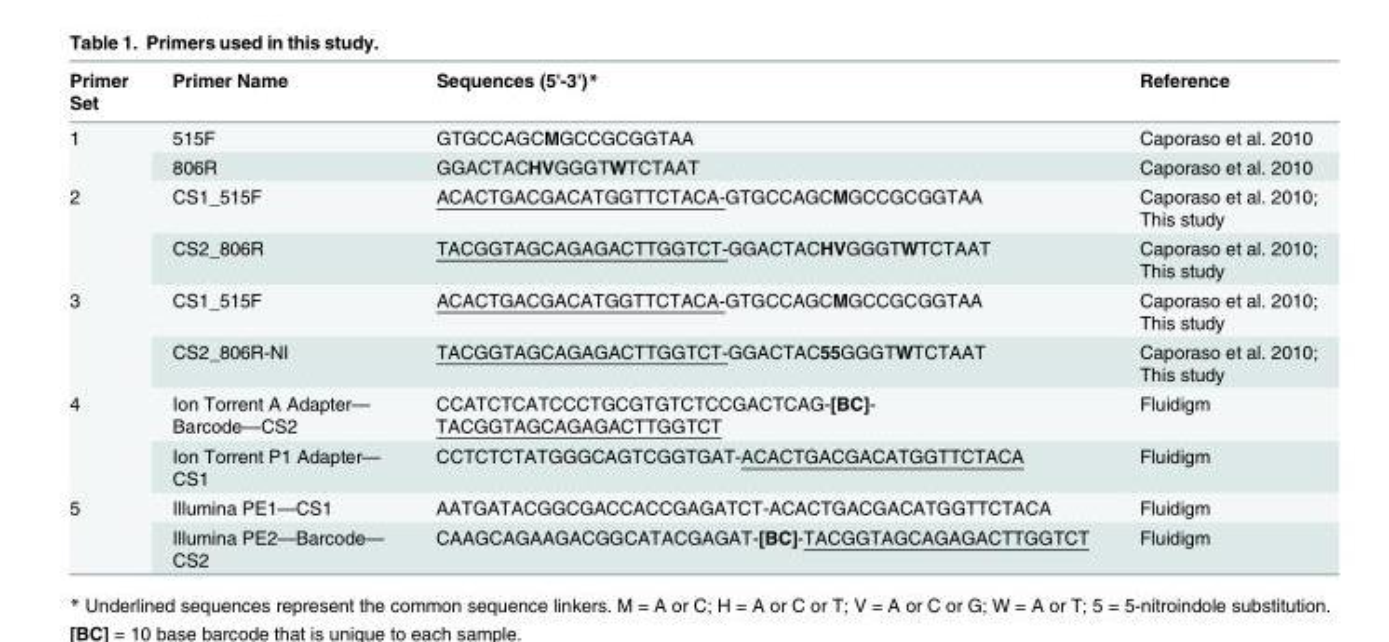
<table><thead><tr><td>Primer Set</td><td>Primer Name</td><td>Sequences (5&#x27;-3&#x27;)*</td><td>Reference</td></tr></thead><tbody><tr><td rowspan="2">1</td><td>515F</td><td>GTGCCAGCMGCCGCGGTAA</td><td>Caporaso et al. 2010</td></tr><tr><td>806R</td><td>GGACTACHVGGGTWTCTAAT</td><td>Caporaso et al. 2010</td></tr><tr><td rowspan="2">2</td><td>CS1_515F</td><td>ACACTGACGACATGGTTCTACA-GTGCCAGCMGCCGCGGTAA</td><td>Caporaso et al. 2010; This study</td></tr><tr><td>CS2_806R</td><td>TACGGTAGCAGAGACTTGGTCT-GGACTACHVGGGTWTCTAAT</td><td>Caporaso et al. 2010; This study</td></tr><tr><td rowspan="2">3</td><td>CS1_515F</td><td>ACACTGACGACATGGTTCTACA-GTGCCAGCMGCCGCGGTAA</td><td>Caporaso et al. 2010; This study</td></tr><tr><td>CS2_806R-NI</td><td>TACGGTAGCAGAGACTTGGTCT-GGACTAC55GGGTWTCTAAT</td><td>Caporaso et al. 2010; This study</td></tr><tr><td rowspan="2">4</td><td>Ion Torrent A Adapter— Barcode—CS2</td><td>CCATCTCATCCCTGCGTGTCTCCGACTCAG-[BC]- TACGGTAGCAGAGACTTGGTCT</td><td>Fluidigm</td></tr><tr><td>Ion Torrent P1 Adapter— CS1</td><td>CCTCTCTATGGGCAGTCGGTGAT-ACACTGACGACATGGTTCTACA</td><td>Fluidigm</td></tr><tr><td rowspan="2">5</td><td>Illumina PE1—CS1</td><td>AATGATACGGCGACCACCGAGATCT-ACACTGACGACATGGTTCTACA</td><td>Fluidigm</td></tr><tr><td>Illumina PE2—Barcode— CS2</td><td>CAAGCAGAAGACGGCATACGAGAT-[BC]-TACGGTAGCAGAGACTTGGTCT</td><td>Fluidigm</td></tr></tbody></table>